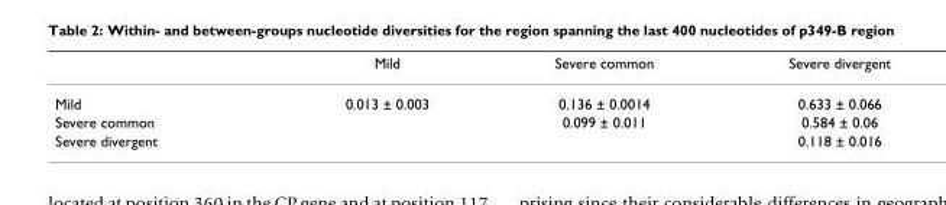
<table><thead><tr><td></td><td>Mild</td><td>Severe common</td><td>Severe divergent</td></tr></thead><tbody><tr><td>Mild</td><td>0.013 ± 0.003</td><td>0.136 ± 0.0014</td><td>0.633 ± 0.066</td></tr><tr><td>Severe common</td><td></td><td>0.099 ± 0.011</td><td>0.584 ± 0.06</td></tr><tr><td>Severe divergent</td><td></td><td></td><td>0.118 ± 0.016</td></tr></tbody></table>